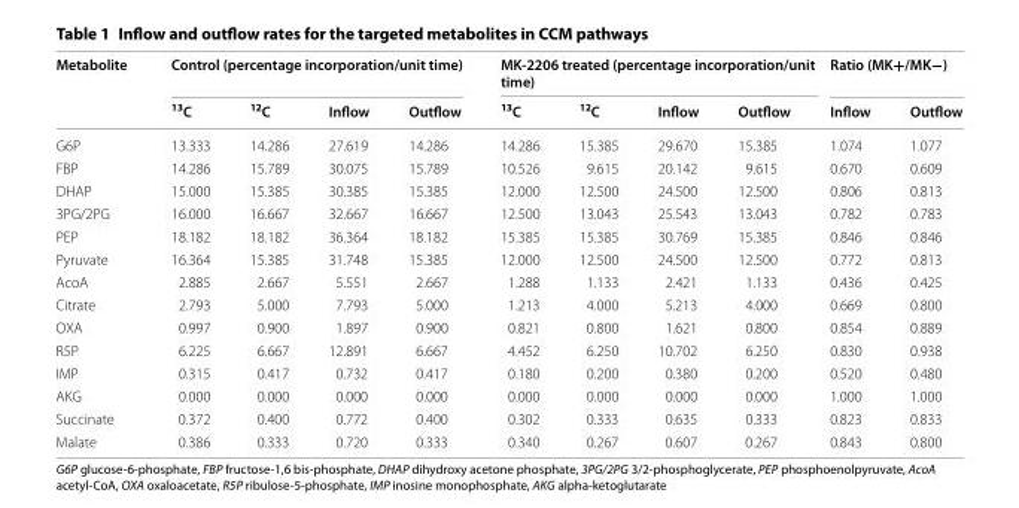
<table><thead><tr><td rowspan="2">Metabolite</td><td colspan="4">Control (percentage incorporation/unit time)</td><td colspan="4">MK-2206 treated (percentage incorporation/unit time)</td><td colspan="2">Ratio (MK+/MK−)</td></tr><tr><td><sup>13</sup>C</td><td><sup>12</sup>C</td><td>Inflow</td><td>Outflow</td><td><sup>13</sup>C</td><td><sup>12</sup>C</td><td>Inflow</td><td>Outflow</td><td>Inflow</td><td>Outflow</td></tr></thead><tbody><tr><td>G6P</td><td>13.333</td><td>14.286</td><td>27.619</td><td>14.286</td><td>14.286</td><td>15.385</td><td>29.670</td><td>15.385</td><td>1.074</td><td>1.077</td></tr><tr><td>FBP</td><td>14.286</td><td>15.789</td><td>30.075</td><td>15.789</td><td>10.526</td><td>9.615</td><td>20.142</td><td>9.615</td><td>0.670</td><td>0.609</td></tr><tr><td>DHAP</td><td>15.000</td><td>15.385</td><td>30.385</td><td>15.385</td><td>12.000</td><td>12.500</td><td>24.500</td><td>12.500</td><td>0.806</td><td>0.813</td></tr><tr><td>3PG/2PG</td><td>16.000</td><td>16.667</td><td>32.667</td><td>16.667</td><td>12.500</td><td>13.043</td><td>25.543</td><td>13.043</td><td>0.782</td><td>0.783</td></tr><tr><td>PEP</td><td>18.182</td><td>18.182</td><td>36.364</td><td>18.182</td><td>15.385</td><td>15.385</td><td>30.769</td><td>15.385</td><td>0.846</td><td>0.846</td></tr><tr><td>Pyruvate</td><td>16.364</td><td>15.385</td><td>31.748</td><td>15.385</td><td>12.000</td><td>12.500</td><td>24.500</td><td>12.500</td><td>0.772</td><td>0.813</td></tr><tr><td>AcoA</td><td>2.885</td><td>2.667</td><td>5.551</td><td>2.667</td><td>1.288</td><td>1.133</td><td>2.421</td><td>1.133</td><td>0.436</td><td>0.425</td></tr><tr><td>Citrate</td><td>2.793</td><td>5.000</td><td>7.793</td><td>5.000</td><td>1.213</td><td>4.000</td><td>5.213</td><td>4.000</td><td>0.669</td><td>0.800</td></tr><tr><td>OXA</td><td>0.997</td><td>0.900</td><td>1.897</td><td>0.900</td><td>0.821</td><td>0.800</td><td>1.621</td><td>0.800</td><td>0.854</td><td>0.889</td></tr><tr><td>R5P</td><td>6.225</td><td>6.667</td><td>12.891</td><td>6.667</td><td>4.452</td><td>6.250</td><td>10.702</td><td>6.250</td><td>0.830</td><td>0.938</td></tr><tr><td>IMP</td><td>0.315</td><td>0.417</td><td>0.732</td><td>0.417</td><td>0.180</td><td>0.200</td><td>0.380</td><td>0.200</td><td>0.520</td><td>0.480</td></tr><tr><td>AKG</td><td>0.000</td><td>0.000</td><td>0.000</td><td>0.000</td><td>0.000</td><td>0.000</td><td>0.000</td><td>0.000</td><td>1.000</td><td>1.000</td></tr><tr><td>Succinate</td><td>0.372</td><td>0.400</td><td>0.772</td><td>0.400</td><td>0.302</td><td>0.333</td><td>0.635</td><td>0.333</td><td>0.823</td><td>0.833</td></tr><tr><td>Malate</td><td>0.386</td><td>0.333</td><td>0.720</td><td>0.333</td><td>0.340</td><td>0.267</td><td>0.607</td><td>0.267</td><td>0.843</td><td>0.800</td></tr></tbody></table>